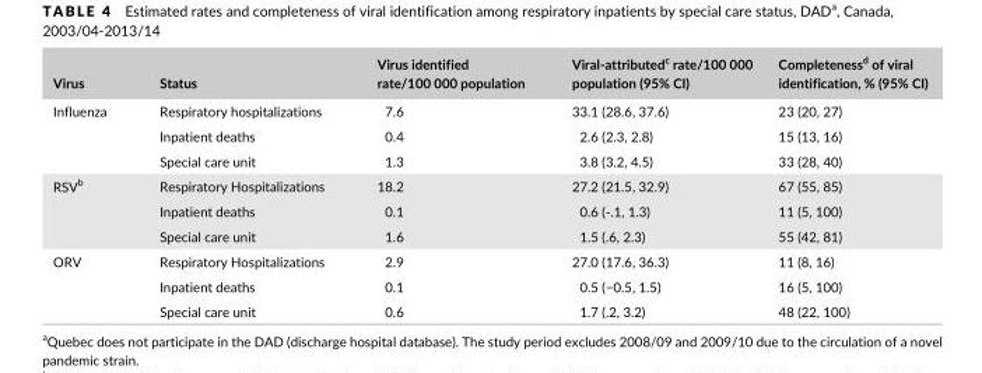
<table><thead><tr><td>Virus</td><td>Status</td><td>Virus identified rate/100 000 population</td><td>Viral- attributed<sup>c</sup> rate/100 000 population (95% CI)</td><td>Completeness<sup>d</sup> of viral identification, % (95% CI)</td></tr></thead><tbody><tr><td rowspan="3">Influenza</td><td>Respiratory hospitalizations</td><td>7.6</td><td>33.1 (28.6, 37.6)</td><td>23 (20, 27)</td></tr><tr><td>Inpatient deaths</td><td>0.4</td><td>2.6 (2.3, 2.8)</td><td>15 (13, 16)</td></tr><tr><td>Special care unit</td><td>1.3</td><td>3.8 (3.2, 4.5)</td><td>33 (28, 40)</td></tr><tr><td rowspan="3">RSV<sup>b</sup></td><td>Respiratory Hospitalizations</td><td>18.2</td><td>27.2 (21.5, 32.9)</td><td>67 (55, 85)</td></tr><tr><td>Inpatient deaths</td><td>0.1</td><td>0.6 (- .1, 1.3)</td><td>11 (5, 100)</td></tr><tr><td>Special care unit</td><td>1.6</td><td>1.5 (.6, 2.3)</td><td>55 (42, 81)</td></tr><tr><td rowspan="3">ORV</td><td>Respiratory Hospitalizations</td><td>2.9</td><td>27.0 (17.6, 36.3)</td><td>11 (8, 16)</td></tr><tr><td>Inpatient deaths</td><td>0.1</td><td>0.5 (−0.5, 1.5)</td><td>16 (5, 100)</td></tr><tr><td>Special care unit</td><td>0.6</td><td>1.7 (.2, 3.2)</td><td>48 (22, 100)</td></tr></tbody></table>